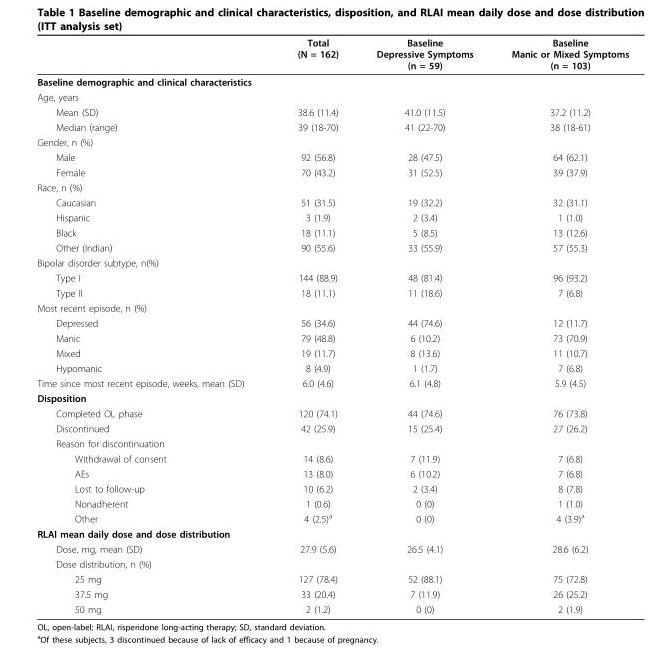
<table><thead><tr><td></td><td>Total (N = 162)</td><td>Baseline Depressive Symptoms (n = 59)</td><td>Baseline Manic or Mixed Symptoms (n = 103)</td></tr></thead><tbody><tr><td colspan="4">Baseline demographic and clinical characteristics</td></tr><tr><td colspan="4">Age, years</td></tr><tr><td>Mean (SD)</td><td>38.6 (11.4)</td><td>41.0 (11.5)</td><td>37.2 (11.2)</td></tr><tr><td>Median (range)</td><td>39 (18-70)</td><td>41 (22-70)</td><td>38 (18-61)</td></tr><tr><td colspan="4">Gender, n (%)</td></tr><tr><td>Male</td><td>92 (56.8)</td><td>28 (47.5)</td><td>64 (62.1)</td></tr><tr><td>Female</td><td>70 (43.2)</td><td>31 (52.5)</td><td>39 (37.9)</td></tr><tr><td colspan="4">Race, n (%)</td></tr><tr><td>Caucasian</td><td>51 (31.5)</td><td>19 (32.2)</td><td>32 (31.1)</td></tr><tr><td>Hispanic</td><td>3 (1.9)</td><td>2 (3.4)</td><td>1 (1.0)</td></tr><tr><td>Black</td><td>18 (11.1)</td><td>5 (8.5)</td><td>13 (12.6)</td></tr><tr><td>Other (Indian)</td><td>90 (55.6)</td><td>33 (55.9)</td><td>57 (55.3)</td></tr><tr><td colspan="4">Bipolar disorder subtype, n(%)</td></tr><tr><td>Type I</td><td>144 (88.9)</td><td>48 (81.4)</td><td>96 (93.2)</td></tr><tr><td>Type II</td><td>18 (11.1)</td><td>11 (18.6)</td><td>7 (6.8)</td></tr><tr><td colspan="4">Most recent episode, n (%)</td></tr><tr><td>Depressed</td><td>56 (34.6)</td><td>44 (74.6)</td><td>12 (11.7)</td></tr><tr><td>Manic</td><td>79 (48.8)</td><td>6 (10.2)</td><td>73 (70.9)</td></tr><tr><td>Mixed</td><td>19 (11.7)</td><td>8 (13.6)</td><td>11 (10.7)</td></tr><tr><td>Hypomanic</td><td>8 (4.9)</td><td>1 (1.7)</td><td>7 (6.8)</td></tr><tr><td>Time since most recent episode, weeks, mean (SD)</td><td>6.0 (4.6)</td><td>6.1 (4.8)</td><td>5.9 (4.5)</td></tr><tr><td colspan="4">Disposition</td></tr><tr><td>Completed OL phase</td><td>120 (74.1)</td><td>44 (74.6)</td><td>76 (73.8)</td></tr><tr><td>Discontinued</td><td>42 (25.9)</td><td>15 (25.4)</td><td>27 (26.2)</td></tr><tr><td colspan="4">Reason for discontinuation</td></tr><tr><td>Withdrawal of consent</td><td>14 (8.6)</td><td>7 (11.9)</td><td>7 (6.8)</td></tr><tr><td>AEs</td><td>13 (8.0)</td><td>6 (10.2)</td><td>7 (6.8)</td></tr><tr><td>Lost to follow-up</td><td>10 (6.2)</td><td>2 (3.4)</td><td>8 (7.8)</td></tr><tr><td>Nonadherent</td><td>1 (0.6)</td><td>0 (0)</td><td>1 (1.0)</td></tr><tr><td>Other</td><td>4 (2.5)<sup>a</sup></td><td>0 (0)</td><td>4 (3.9)<sup>a</sup></td></tr><tr><td colspan="4">RLAI mean daily dose and dose distribution</td></tr><tr><td>Dose, mg, mean (SD)</td><td>27.9 (5.6)</td><td>26.5 (4.1)</td><td>28.6 (6.2)</td></tr><tr><td colspan="4">Dose distribution, n (%)</td></tr><tr><td>25 mg</td><td>127 (78.4)</td><td>52 (88.1)</td><td>75 (72.8)</td></tr><tr><td>37.5 mg</td><td>33 (20.4)</td><td>7 (11.9)</td><td>26 (25.2)</td></tr><tr><td>50 mg</td><td>2 (1.2)</td><td>0 (0)</td><td>2 (1.9)</td></tr></tbody></table>